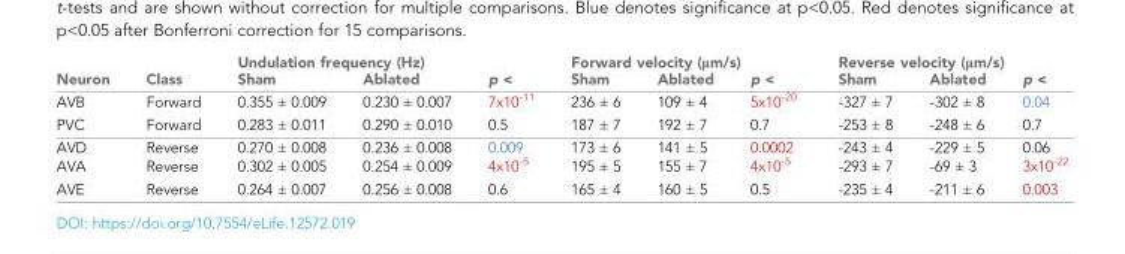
<table><thead><tr><td rowspan="2">Neuron</td><td rowspan="2">Class</td><td colspan="3">Undulation frequency (Hz)</td><td colspan="3">Forward velocity (μm/s)</td><td colspan="3">Reverse velocity (μm/s)</td></tr><tr><td>Sham</td><td>Ablated</td><td>p &lt;</td><td>Sham</td><td>Ablated</td><td>p &lt;</td><td>Sham</td><td>Ablated</td><td>p &lt;</td></tr></thead><tbody><tr><td>AVB</td><td>Forward</td><td>0.355 ± 0.009</td><td>0.230 ± 0.007</td><td>7x10<sup>-11</sup></td><td>236 ± 6</td><td>109 ± 4</td><td>5x10<sup>-20</sup></td><td>-327 ± 7</td><td>-302 ± 8</td><td>0.04</td></tr><tr><td>PVC</td><td>Forward</td><td>0.283 ± 0.011</td><td>0.290 ± 0.010</td><td>0.5</td><td>187 ± 7</td><td>192 ± 7</td><td>0.7</td><td>-253 ± 8</td><td>-248 ± 6</td><td>0.7</td></tr><tr><td>AVD</td><td>Reverse</td><td>0.270 ± 0.008</td><td>0.236 ± 0.008</td><td>0.009</td><td>173 ± 6</td><td>141 ± 5</td><td>0.0002</td><td>-243 ± 4</td><td>-229 ± 5</td><td>0.06</td></tr><tr><td>AVA</td><td>Reverse</td><td>0.302 ± 0.005</td><td>0.254 ± 0.009</td><td>4x10<sup>-5</sup></td><td>195 ± 5</td><td>155 ± 7</td><td>4x10<sup>-5</sup></td><td>-293 ± 7</td><td>-69 ± 3</td><td>3x10<sup>-22</sup></td></tr><tr><td>AVE</td><td>Reverse</td><td>0.264 ± 0.007</td><td>0.256 ± 0.008</td><td>0.6</td><td>165 ± 4</td><td>160 ± 5</td><td>0.5</td><td>-235 ± 4</td><td>-211 ± 6</td><td>0.003</td></tr></tbody></table>